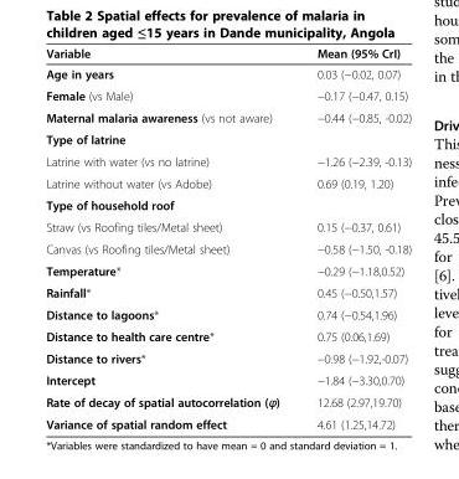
<table><thead><tr><td>Variable</td><td>Mean (95% CrI)</td></tr></thead><tbody><tr><td>Age in years</td><td>0.03 (−0.02, 0.07)</td></tr><tr><td>Female (vs Male)</td><td>−0.17 (−0.47, 0.15)</td></tr><tr><td>Maternal malaria awareness (vs not aware)</td><td>−0.44 (−0.85, -0.02)</td></tr><tr><td colspan="2">Type of latrine</td></tr><tr><td>Latrine with water (vs no latrine)</td><td>−1.26 (−2.39, -0.13)</td></tr><tr><td>Latrine without water (vs Adobe)</td><td>0.69 (0.19, 1.20)</td></tr><tr><td colspan="2">Type of household roof</td></tr><tr><td>Straw (vs Roofing tiles/Metal sheet)</td><td>0.15 (−0.37, 0.61)</td></tr><tr><td>Canvas (vs Roofing tiles/Metal sheet)</td><td>−0.58 (−1.50, -0.18)</td></tr><tr><td>Temperature*</td><td>−0.29 (−1.18,0.52)</td></tr><tr><td>Rainfall*</td><td>0.45 (−0.50,1.57)</td></tr><tr><td>Distance to lagoons*</td><td>0.74 (−0.54,1.96)</td></tr><tr><td>Distance to health care centre*</td><td>0.75 (0.06,1.69)</td></tr><tr><td>Distance to rivers*</td><td>−0.98 (−1.92,-0.07)</td></tr><tr><td>Intercept</td><td>−1.84 (−3.30,0.70)</td></tr><tr><td>Rate of decay of spatial autocorrelation (ϕ)</td><td>12.68 (2.97,19.70)</td></tr><tr><td>Variance of spatial random effect</td><td>4.61 (1.25,14.72)</td></tr></tbody></table>